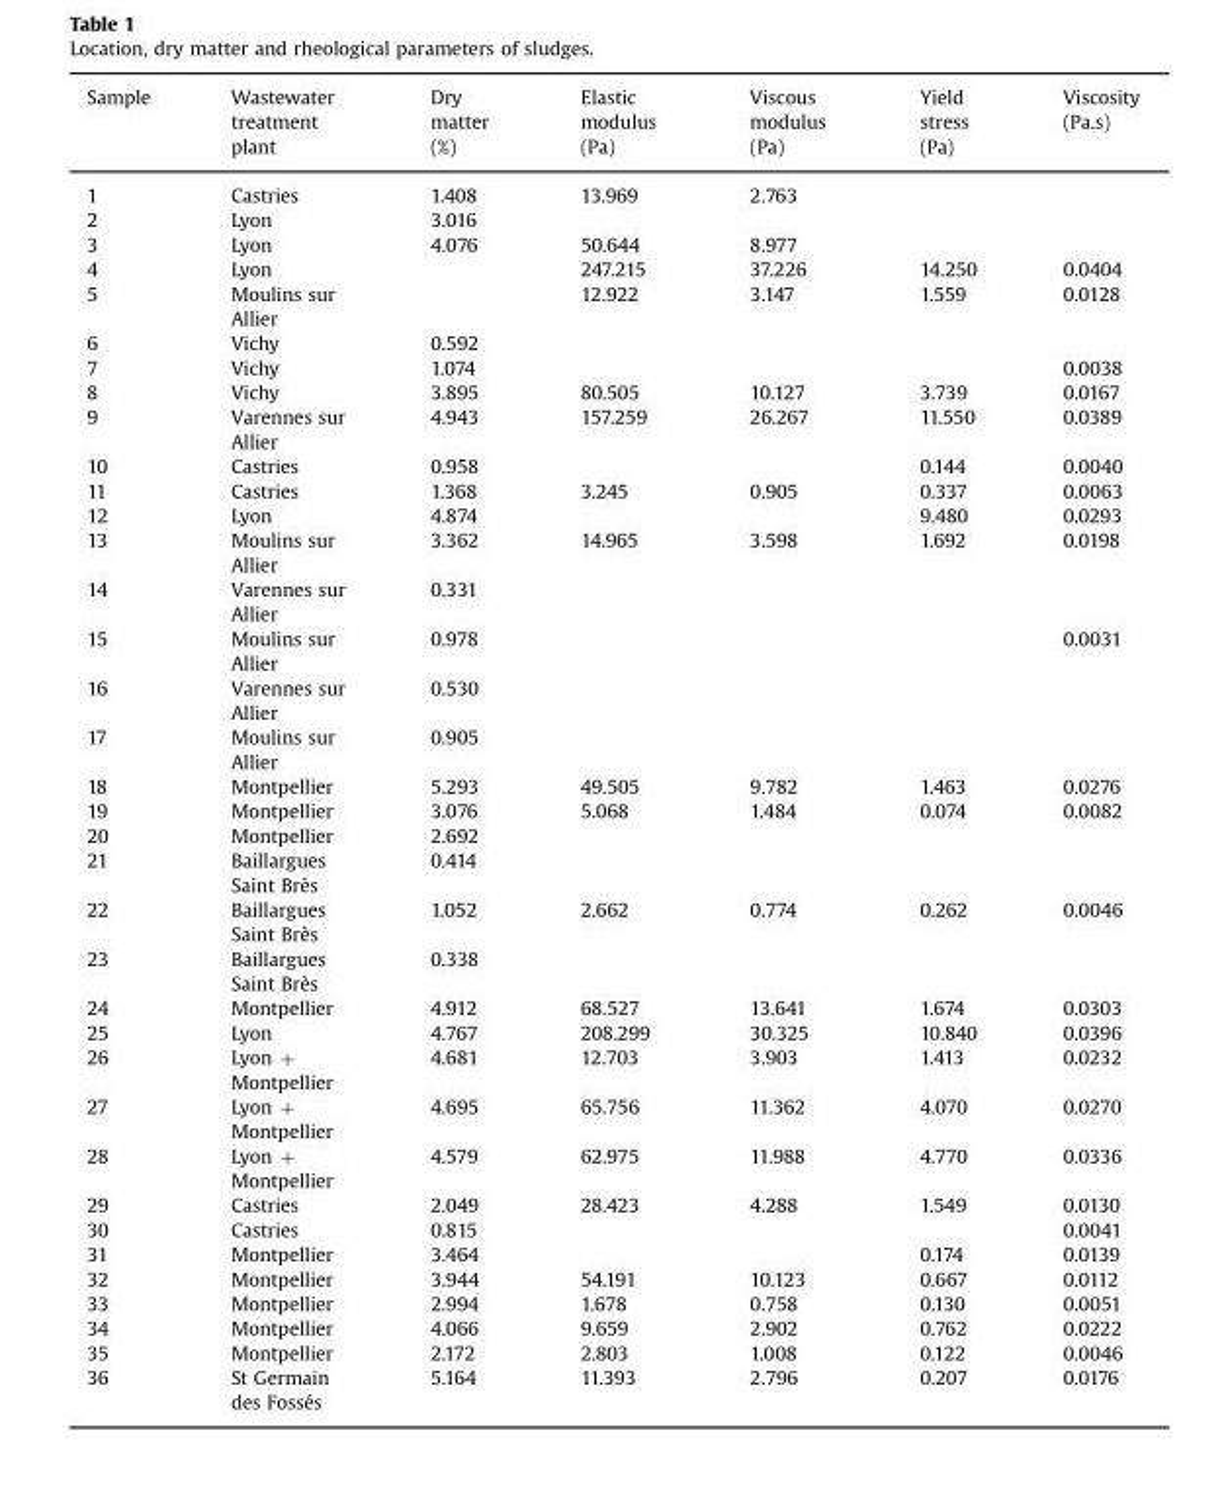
<table><thead><tr><td>Sample</td><td>Wastewater treatment plant</td><td>Dry matter (%)</td><td>Elastic modulus (Pa)</td><td>Viscous modulus (Pa)</td><td>Yield stress (Pa)</td><td>Viscosity (Pa.s)</td></tr></thead><tbody><tr><td>1</td><td>Castries</td><td>1.408</td><td>13.969</td><td>2.763</td><td></td><td></td></tr><tr><td>2</td><td>Lyon</td><td>3.016</td><td></td><td></td><td></td><td></td></tr><tr><td>3</td><td>Lyon</td><td>4.076</td><td>50.644</td><td>8.977</td><td></td><td></td></tr><tr><td>4</td><td>Lyon</td><td></td><td>247.215</td><td>37.226</td><td>14.250</td><td>0.0404</td></tr><tr><td>5</td><td>Moulins sur Allier</td><td></td><td>12.922</td><td>3.147</td><td>1.559</td><td>0.0128</td></tr><tr><td>6</td><td>Vichy</td><td>0.592</td><td></td><td></td><td></td><td></td></tr><tr><td>7</td><td>Vichy</td><td>1.074</td><td></td><td></td><td></td><td>0.0038</td></tr><tr><td>8</td><td>Vichy</td><td>3.895</td><td>80.505</td><td>10.127</td><td>3.739</td><td>0.0167</td></tr><tr><td>9</td><td>Varennes sur Allier</td><td>4.943</td><td>157.259</td><td>26.267</td><td>11.550</td><td>0.0389</td></tr><tr><td>10</td><td>Castries</td><td>0.958</td><td></td><td></td><td>0.144</td><td>0.0040</td></tr><tr><td>11</td><td>Castries</td><td>1.368</td><td>3.245</td><td>0.905</td><td>0.337</td><td>0.0063</td></tr><tr><td>12</td><td>Lyon</td><td>4.874</td><td></td><td></td><td>9.480</td><td>0.0293</td></tr><tr><td>13</td><td>Moulins sur Allier</td><td>3.362</td><td>14.965</td><td>3.598</td><td>1.692</td><td>0.0198</td></tr><tr><td>14</td><td>Varennes sur Allier</td><td>0.331</td><td></td><td></td><td></td><td></td></tr><tr><td>15</td><td>Moulins sur Allier</td><td>0.978</td><td></td><td></td><td></td><td>0.0031</td></tr><tr><td>16</td><td>Varennes sur Allier</td><td>0.530</td><td></td><td></td><td></td><td></td></tr><tr><td>17</td><td>Moulins sur Allier</td><td>0.905</td><td></td><td></td><td></td><td></td></tr><tr><td>18</td><td>Montpellier</td><td>5.293</td><td>49.505</td><td>9.782</td><td>1.463</td><td>0.0276</td></tr><tr><td>19</td><td>Montpellier</td><td>3.076</td><td>5.068</td><td>1.484</td><td>0.074</td><td>0.0082</td></tr><tr><td>20</td><td>Montpellier</td><td>2.692</td><td></td><td></td><td></td><td></td></tr><tr><td>21</td><td>Baillargues Saint Brès</td><td>0.414</td><td></td><td></td><td></td><td></td></tr><tr><td>22</td><td>Baillargues Saint Brès</td><td>1.052</td><td>2.662</td><td>0.774</td><td>0.262</td><td>0.0046</td></tr><tr><td>23</td><td>Baillargues Saint Brès</td><td>0.338</td><td></td><td></td><td></td><td></td></tr><tr><td>24</td><td>Montpellier</td><td>4.912</td><td>68.527</td><td>13.641</td><td>1.674</td><td>0.0303</td></tr><tr><td>25</td><td>Lyon</td><td>4.767</td><td>208.299</td><td>30.325</td><td>10.840</td><td>0.0396</td></tr><tr><td>26</td><td>Lyon + Montpellier</td><td>4.681</td><td>12.703</td><td>3.903</td><td>1.413</td><td>0.0232</td></tr><tr><td>27</td><td>Lyon + Montpellier</td><td>4.695</td><td>65.756</td><td>11.362</td><td>4.070</td><td>0.0270</td></tr><tr><td>28</td><td>Lyon + Montpellier</td><td>4.579</td><td>62.975</td><td>11.988</td><td>4.770</td><td>0.0336</td></tr><tr><td>29</td><td>Castries</td><td>2.049</td><td>28.423</td><td>4.288</td><td>1.549</td><td>0.0130</td></tr><tr><td>30</td><td>Castries</td><td>0.815</td><td></td><td></td><td></td><td>0.0041</td></tr><tr><td>31</td><td>Montpellier</td><td>3.464</td><td></td><td></td><td>0.174</td><td>0.0139</td></tr><tr><td>32</td><td>Montpellier</td><td>3.944</td><td>54.191</td><td>10.123</td><td>0.667</td><td>0.0112</td></tr><tr><td>33</td><td>Montpellier</td><td>2.994</td><td>1.678</td><td>0.758</td><td>0.130</td><td>0.0051</td></tr><tr><td>34</td><td>Montpellier</td><td>4.066</td><td>9.659</td><td>2.902</td><td>0.762</td><td>0.0222</td></tr><tr><td>35</td><td>Montpellier</td><td>2.172</td><td>2.803</td><td>1.008</td><td>0.122</td><td>0.0046</td></tr><tr><td>36</td><td>St Germain des Fossés</td><td>5.164</td><td>11.393</td><td>2.796</td><td>0.207</td><td>0.0176</td></tr></tbody></table>